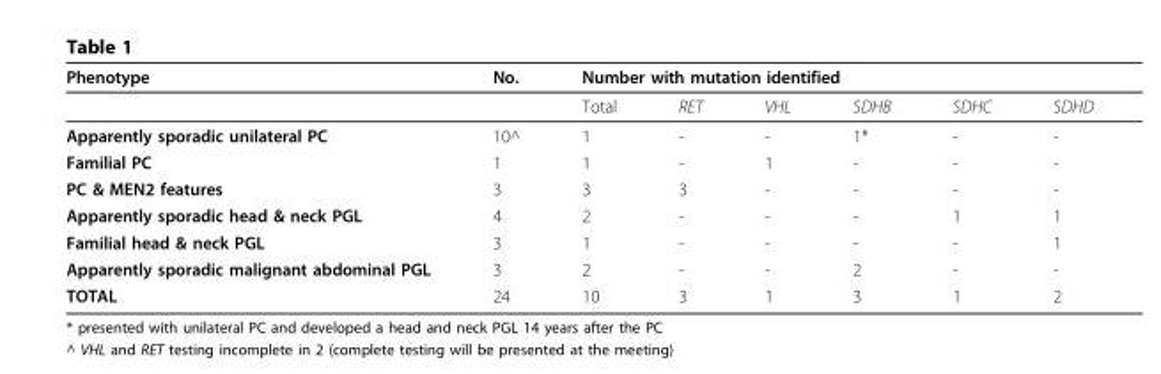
<table><thead><tr><td rowspan="2">Phenotype</td><td rowspan="2">No.</td><td colspan="6">Number with mutation identified</td></tr><tr><td>Total</td><td>RET</td><td>VHL</td><td>SDHB</td><td>SDHC</td><td>SDHD</td></tr></thead><tbody><tr><td>Apparently sporadic unilateral PC</td><td>10^</td><td>1</td><td>-</td><td>-</td><td>1*</td><td>-</td><td>-</td></tr><tr><td>Familial PC</td><td>1</td><td>1</td><td>-</td><td>1</td><td>-</td><td>-</td><td>-</td></tr><tr><td>PC &amp; MEN2 features</td><td>3</td><td>3</td><td>3</td><td>-</td><td>-</td><td>-</td><td>-</td></tr><tr><td>Apparently sporadic head &amp; neck PGL</td><td>4</td><td>2</td><td>-</td><td>-</td><td>-</td><td>1</td><td>1</td></tr><tr><td>Familial head &amp; neck PGL</td><td>3</td><td>1</td><td>-</td><td>-</td><td>-</td><td>-</td><td>1</td></tr><tr><td>Apparently sporadic malignant abdominal PGL</td><td>3</td><td>2</td><td>-</td><td>-</td><td>2</td><td>-</td><td>-</td></tr><tr><td>TOTAL</td><td>24</td><td>10</td><td>3</td><td>1</td><td>3</td><td>1</td><td>2</td></tr></tbody></table>